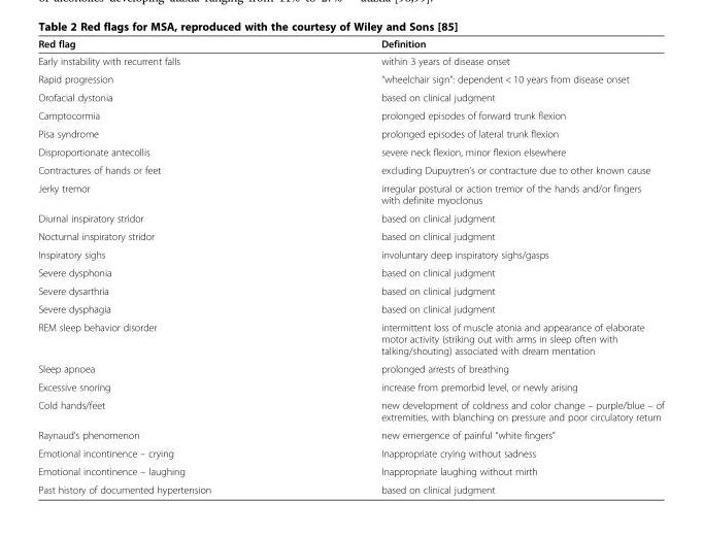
<table><thead><tr><td>Red flag</td><td>Definition</td></tr></thead><tbody><tr><td>Early instability with recurrent falls</td><td>within 3 years of disease onset</td></tr><tr><td>Rapid progression</td><td>“wheelchair sign”: dependent &lt; 10 years from disease onset</td></tr><tr><td>Orofacial dystonia</td><td>based on clinical judgment</td></tr><tr><td>Camptocormia</td><td>prolonged episodes of forward trunk flexion</td></tr><tr><td>Pisa syndrome</td><td>prolonged episodes of lateral trunk flexion</td></tr><tr><td>Disproportionate antecollis</td><td>severe neck flexion, minor flexion elsewhere</td></tr><tr><td>Contractures of hands or feet</td><td>excluding Dupuytren’s or contracture due to other known cause</td></tr><tr><td>Jerky tremor</td><td>irregular postural or action tremor of the hands and/or fingers with definite myoclonus</td></tr><tr><td>Diurnal inspiratory stridor</td><td>based on clinical judgment</td></tr><tr><td>Nocturnal inspiratory stridor</td><td>based on clinical judgment</td></tr><tr><td>Inspiratory sighs</td><td>involuntary deep inspiratory sighs/gasps</td></tr><tr><td>Severe dysphonia</td><td>based on clinical judgment</td></tr><tr><td>Severe dysarthria</td><td>based on clinical judgment</td></tr><tr><td>Severe dysphagia</td><td>based on clinical judgment</td></tr><tr><td>REM sleep behavior disorder</td><td>intermittent loss of muscle atonia and appearance of elaborate motor activity (striking out with arms in sleep often with talking/shouting) associated with dream mentation</td></tr><tr><td>Sleep apnoea</td><td>prolonged arrests of breathing</td></tr><tr><td>Excessive snoring</td><td>increase from premorbid level, or newly arising</td></tr><tr><td>Cold hands/feet</td><td>new development of coldness and color change – purple/blue – of extremities, with blanching on pressure and poor circulatory return</td></tr><tr><td>Raynaud’s phenomenon</td><td>new emergence of painful “white fingers”</td></tr><tr><td>Emotional incontinence – crying</td><td>Inappropriate crying without sadness</td></tr><tr><td>Emotional incontinence – laughing</td><td>Inappropriate laughing without mirth</td></tr><tr><td>Past history of documented hypertension</td><td>based on clinical judgment</td></tr></tbody></table>